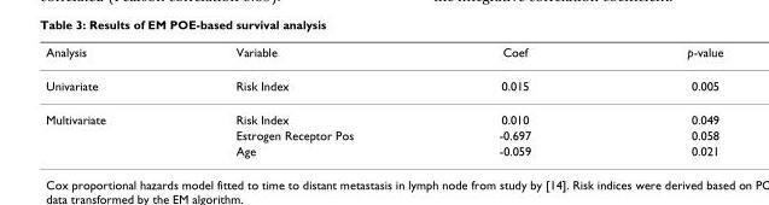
<table><thead><tr><td>Analysis</td><td>Variable</td><td>Coef</td><td>p-value</td></tr></thead><tbody><tr><td>Univariate</td><td>Risk Index</td><td>0.015</td><td>0.005</td></tr><tr><td rowspan="3">Multivariate</td><td>Risk Index</td><td>0.010</td><td>0.049</td></tr><tr><td>Estrogen Receptor Pos</td><td>-0.697</td><td>0.058</td></tr><tr><td>Age</td><td>-0.059</td><td>0.021</td></tr></tbody></table>